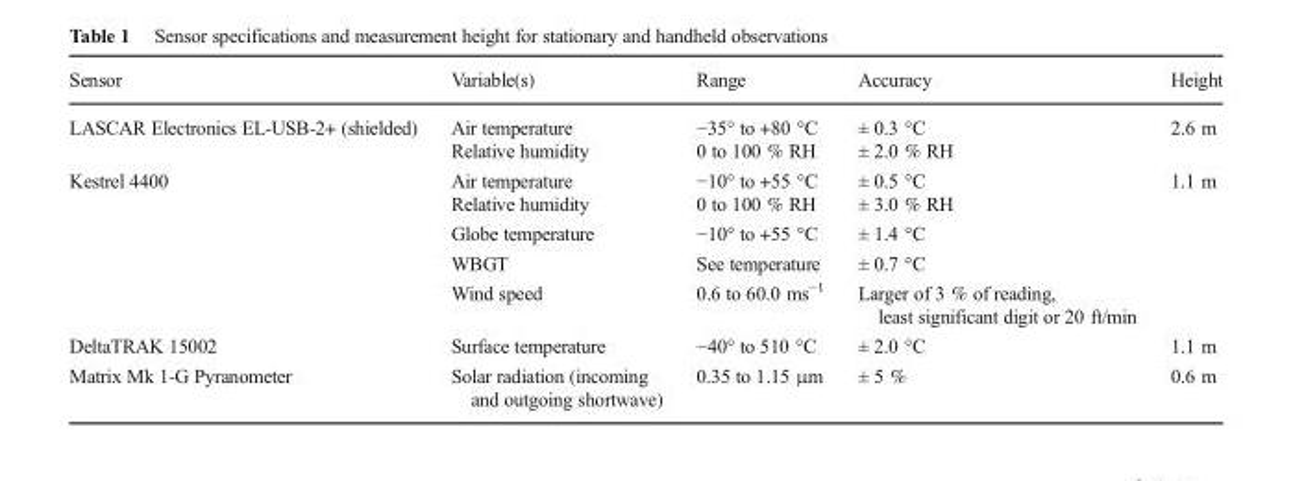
<table><thead><tr><td>Sensor</td><td>Variable(s)</td><td>Range</td><td>Accuracy</td><td>Height</td></tr></thead><tbody><tr><td rowspan="2">LASCAR Electronics EL-USB-2+ (shielded)</td><td>Air temperature</td><td>−35° to +80 °C</td><td>± 0.3 °C</td><td rowspan="2">2.6 m</td></tr><tr><td>Relative humidity</td><td>0 to 100 % RH</td><td>± 2.0 % RH</td></tr><tr><td rowspan="5">Kestrel 4400</td><td>Air temperature</td><td>−10° to +55 °C</td><td>± 0.5 °C</td><td rowspan="5">1.1 m</td></tr><tr><td>Relative humidity</td><td>0 to 100 % RH</td><td>± 3.0 % RH</td></tr><tr><td>Globe temperature</td><td>−10° to +55 °C</td><td>± 1.4 °C</td></tr><tr><td>WBGT</td><td>See temperature</td><td>± 0.7 °C</td></tr><tr><td>Wind speed</td><td>0.6 to 60.0 ms<sup>−1</sup></td><td>Larger of 3 % of reading, least significant digit or 20 ft/min</td></tr><tr><td>DeltaTRAK 15002</td><td>Surface temperature</td><td>−40° to 510 °C</td><td>± 2.0 °C</td><td>1.1 m</td></tr><tr><td>Matrix Mk 1-G Pyranometer</td><td>Solar radiation (incoming and outgoing shortwave)</td><td>0.35 to 1.15 μm</td><td>± 5 %</td><td>0.6 m</td></tr></tbody></table>